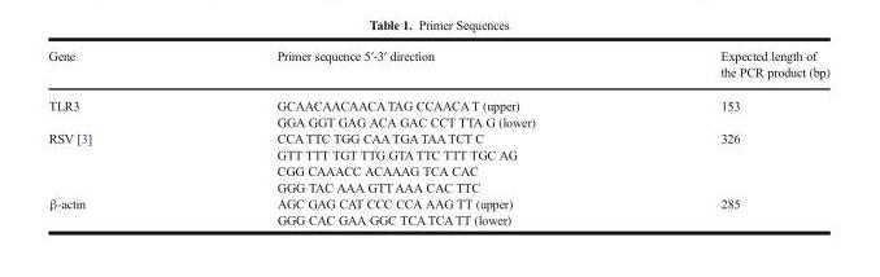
<table><thead><tr><td>Gene</td><td>Primer sequence 5′-3′ direction</td><td>Expected length of the PCR product (bp)</td></tr></thead><tbody><tr><td>TLR3</td><td>GCAACAACAACATAG CCAACA T (upper) GGA GGT GAG ACA GAC CCT TTA G (lower)</td><td>153</td></tr><tr><td>RSV [3]</td><td>CCA TTC TGG CAA TGA TAA TCT C GTT TTT TGT TTG GTA TTC TTT TGC AG CGG CAAACC ACAAAG TCA CAC GGG TAC AAA GTT AAA CAC TTC</td><td>326</td></tr><tr><td>β-actin</td><td>AGC GAG CAT CCC CCA AAG TT (upper) GGG CAC GAA GGC TCATCATT (lower)</td><td>285</td></tr></tbody></table>